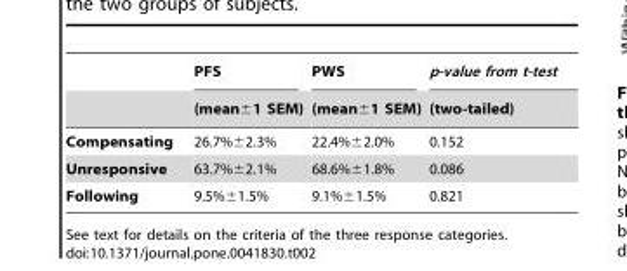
<table><thead><tr><td rowspan="2"></td><td rowspan="2">PFS (mean±1 SEM)</td><td rowspan="2">PWS (mean±1 SEM)</td><td rowspan="2">p-value from t-test (two-tailed)</td></tr><tr></tr></thead><tbody><tr><td>Compensating</td><td>26.7%±2.3%</td><td>22.4%±2.0%</td><td>0.152</td></tr><tr><td>Unresponsive</td><td>63.7%±2.1%</td><td>68.6%±1.8%</td><td>0.086</td></tr><tr><td>Following</td><td>9.5%±1.5%</td><td>9.1%±1.5%</td><td>0.821</td></tr></tbody></table>